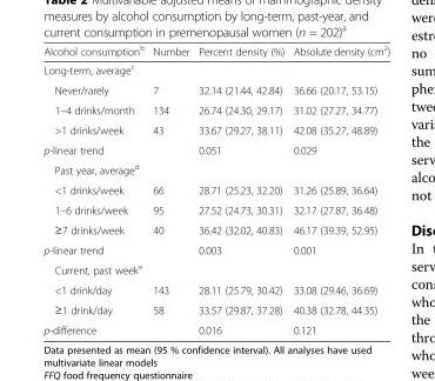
<table><thead><tr><td>Alcohol consumption<sup>b</sup></td><td>Number</td><td>Percent density (%)</td><td>Absolute density (cm<sup>2</sup>)</td></tr></thead><tbody><tr><td colspan="4">Long-term, average<sup>c</sup></td></tr><tr><td>Never/rarely</td><td>7</td><td>32.14 (21.44, 42.84)</td><td>36.66 (20.17, 53.15)</td></tr><tr><td>1–4 drinks/month</td><td>134</td><td>26.74 (24.30, 29.17)</td><td>31.02 (27.27, 34.77)</td></tr><tr><td>&gt;1 drinks/week</td><td>43</td><td>33.67 (29.27, 38.11)</td><td>42.08 (35.27, 48.89)</td></tr><tr><td>p-linear trend</td><td></td><td>0.051</td><td>0.029</td></tr><tr><td colspan="4">Past year, average<sup>d</sup></td></tr><tr><td>&lt;1 drinks/week</td><td>66</td><td>28.71 (25.23, 32.20)</td><td>31.26 (25.89, 36.64)</td></tr><tr><td>1–6 drinks/week</td><td>95</td><td>27.52 (24.73, 30.31)</td><td>32.17 (27.87, 36.48)</td></tr><tr><td>≥7 drinks/week</td><td>40</td><td>36.42 (32.02, 40.83)</td><td>46.17 (39.39, 52.95)</td></tr><tr><td>p-linear trend</td><td></td><td>0.003</td><td>0.001</td></tr><tr><td colspan="4">Current, past week<sup>e</sup></td></tr><tr><td>&lt;1 drink/day</td><td>143</td><td>28.11 (25.79, 30.42)</td><td>33.08 (29.46, 36.69)</td></tr><tr><td>≥1 drink/day</td><td>58</td><td>33.57 (29.87, 37.28)</td><td>40.38 (32.78, 44.35)</td></tr><tr><td>p-difference</td><td></td><td>0.016</td><td>0.121</td></tr></tbody></table>